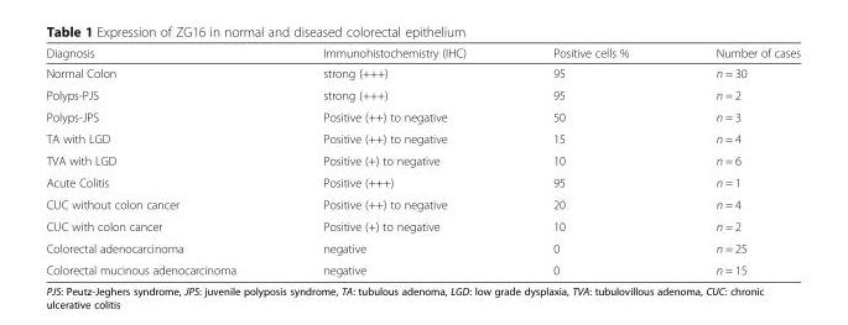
<table><thead><tr><td>Diagnosis</td><td>Immunohistochemistry (IHC)</td><td>Positive cells %</td><td>Number of cases</td></tr></thead><tbody><tr><td>Normal Colon</td><td>strong (+++)</td><td>95</td><td>n = 30</td></tr><tr><td>Polyps-PJS</td><td>strong (+++)</td><td>95</td><td>n = 2</td></tr><tr><td>Polyps-JPS</td><td>Positive (++) to negative</td><td>50</td><td>n = 3</td></tr><tr><td>TA with LGD</td><td>Positive (++) to negative</td><td>15</td><td>n = 4</td></tr><tr><td>TVA with LGD</td><td>Positive (+) to negative</td><td>10</td><td>n = 6</td></tr><tr><td>Acute Colitis</td><td>Positive (+++)</td><td>95</td><td>n = 1</td></tr><tr><td>CUC without colon cancer</td><td>Positive (++) to negative</td><td>20</td><td>n = 4</td></tr><tr><td>CUC with colon cancer</td><td>Positive (+) to negative</td><td>10</td><td>n = 2</td></tr><tr><td>Colorectal adenocarcinoma</td><td>negative</td><td>0</td><td>n = 25</td></tr><tr><td>Colorectal mucinous adenocarcinoma</td><td>negative</td><td>0</td><td>n = 15</td></tr></tbody></table>